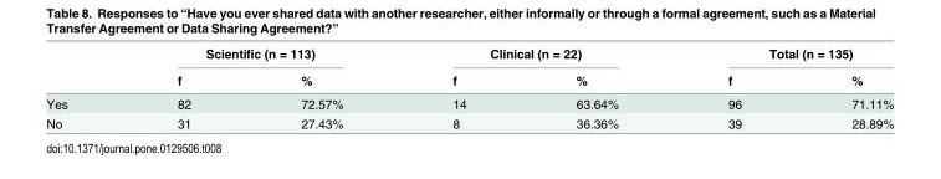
<table><thead><tr><td rowspan="2"></td><td colspan="2">Scientific (n = 113)</td><td colspan="2">Clinical (n = 22)</td><td colspan="2">Total (n = 135)</td></tr><tr><td>f</td><td>%</td><td>f</td><td>%</td><td>f</td><td>%</td></tr></thead><tbody><tr><td>Yes</td><td>82</td><td>72.57%</td><td>14</td><td>63.64%</td><td>96</td><td>71.11%</td></tr><tr><td>No</td><td>31</td><td>27.43%</td><td>8</td><td>36.36%</td><td>39</td><td>28.89%</td></tr></tbody></table>